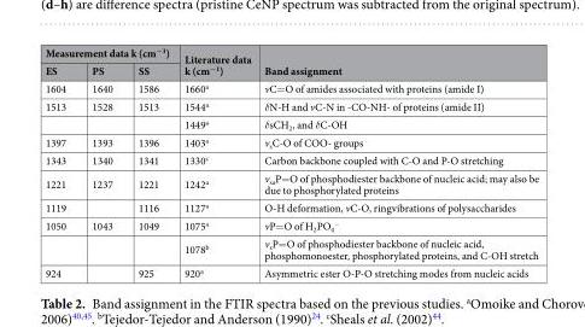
<table><thead><tr><td colspan="3">Measurement data k (cm<sup>−1</sup>)</td><td rowspan="2">Literature data k (cm<sup>−1</sup>)</td><td rowspan="2">Band assignment</td></tr><tr><td>ES</td><td>PS</td><td>SS</td></tr></thead><tbody><tr><td>1604</td><td>1640</td><td>1586</td><td>1660<sup>a</sup></td><td>vC=O of amides associated with proteins (amide I)</td></tr><tr><td rowspan="2">1513</td><td>1528</td><td>1513</td><td>1544<sup>a</sup></td><td>δN-H and vC-N in -CO-NH- of proteins (amide II)</td></tr><tr><td></td><td></td><td>1449<sup>a</sup></td><td>δsCH<sub>2</sub>, and δC-OH</td></tr><tr><td>1397</td><td>1393</td><td>1396</td><td>1403<sup>a</sup></td><td>v<sub>s</sub>C-O of COO- groups</td></tr><tr><td>1343</td><td>1340</td><td>1341</td><td>1330<sup>c</sup></td><td>Carbon backbone coupled with C-O and P-O stretching</td></tr><tr><td>1221</td><td>1237</td><td>1221</td><td>1242<sup>a</sup></td><td>v<sub>sa</sub>P=O of phosphodiester backbone of nucleic acid; may also be due to phosphorylated proteins</td></tr><tr><td>1119</td><td></td><td>1116</td><td>1127<sup>a</sup></td><td>O-H deformation, vC-O, ringvibrations of polysaccharides</td></tr><tr><td rowspan="2">1050</td><td>1043</td><td>1049</td><td>1075<sup>a</sup></td><td>vP=O of H<sub>2</sub>PO<sub>4</sub> <sup>−</sup></td></tr><tr><td></td><td></td><td>1078<sup>b</sup></td><td>v<sub>s</sub>P=O of phosphodiester backbone of nucleic acid, phosphomonoester, phosphorylated proteins, and C-OH stretch</td></tr><tr><td>924</td><td></td><td>925</td><td>920<sup>a</sup></td><td>Asymmetric ester O-P-O stretching modes from nucleic acids</td></tr></tbody></table>